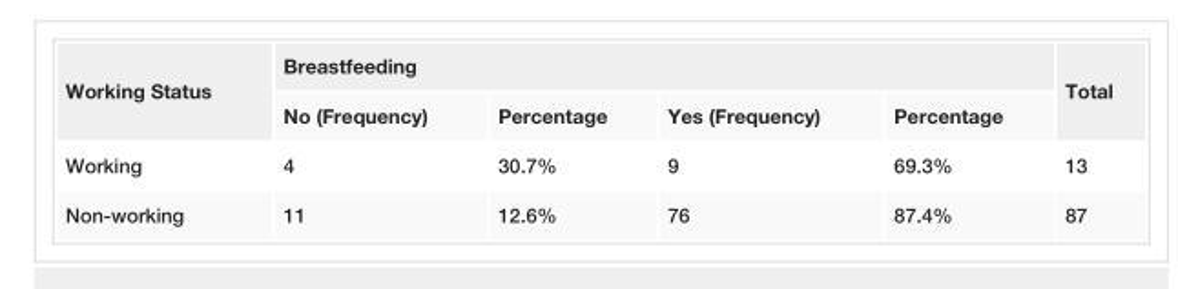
<table><tbody><tr><td rowspan="2">Working Status</td><td colspan="4">Breastfeeding</td><td rowspan="2">Total</td></tr><tr><td>No (Frequency)</td><td>Percentage</td><td>Yes (Frequency)</td><td>Percentage</td></tr><tr><td>Working</td><td>4</td><td>30.7%</td><td>9</td><td>69.3%</td><td>13</td></tr><tr><td>Non-working</td><td>11</td><td>12.6%</td><td>76</td><td>87.4%</td><td>87</td></tr></tbody></table>